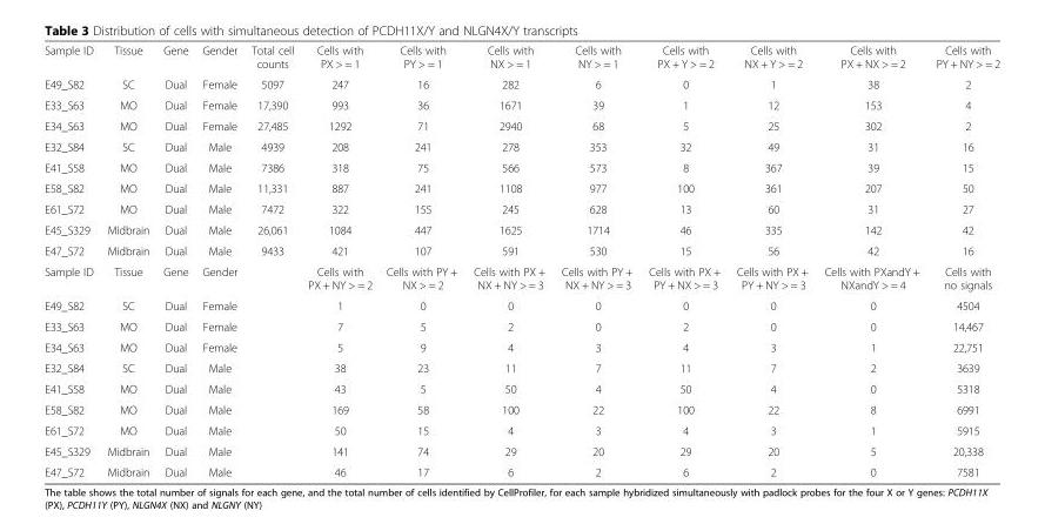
<table><tbody><tr><td>Sample ID</td><td>Tissue</td><td>Gene</td><td>Gender</td><td>Total cell counts</td><td>Cells with PX &gt; = 1</td><td>Cells with PY &gt; = 1</td><td>Cells with NX &gt; = 1</td><td>Cells with NY &gt; = 1</td><td>Cells with PX + Y &gt; = 2</td><td>Cells with NX + Y &gt; = 2</td><td>Cells with PX + NX &gt; = 2</td><td>Cells with PY + NY &gt; = 2</td></tr><tr><td>E49_S82</td><td>SC</td><td>Dual</td><td>Female</td><td>5097</td><td>247</td><td>16</td><td>282</td><td>6</td><td>0</td><td>1</td><td>38</td><td>2</td></tr><tr><td>E33_S63</td><td>MO</td><td>Dual</td><td>Female</td><td>17,390</td><td>993</td><td>36</td><td>1671</td><td>39</td><td>1</td><td>12</td><td>153</td><td>4</td></tr><tr><td>E34_S63</td><td>MO</td><td>Dual</td><td>Female</td><td>27,485</td><td>1292</td><td>71</td><td>2940</td><td>68</td><td>5</td><td>25</td><td>302</td><td>2</td></tr><tr><td>E32_S84</td><td>SC</td><td>Dual</td><td>Male</td><td>4939</td><td>208</td><td>241</td><td>278</td><td>353</td><td>32</td><td>49</td><td>31</td><td>16</td></tr><tr><td>E41_S58</td><td>MO</td><td>Dual</td><td>Male</td><td>7386</td><td>318</td><td>75</td><td>566</td><td>573</td><td>8</td><td>367</td><td>39</td><td>15</td></tr><tr><td>E58_S82</td><td>MO</td><td>Dual</td><td>Male</td><td>11,331</td><td>887</td><td>241</td><td>1108</td><td>977</td><td>100</td><td>361</td><td>207</td><td>50</td></tr><tr><td>E61_S72</td><td>MO</td><td>Dual</td><td>Male</td><td>7472</td><td>322</td><td>155</td><td>245</td><td>628</td><td>13</td><td>60</td><td>31</td><td>27</td></tr><tr><td>E45_S329</td><td>Midbrain</td><td>Dual</td><td>Male</td><td>26,061</td><td>1084</td><td>447</td><td>1625</td><td>1714</td><td>46</td><td>335</td><td>142</td><td>42</td></tr><tr><td>E47_S72</td><td>Midbrain</td><td>Dual</td><td>Male</td><td>9433</td><td>421</td><td>107</td><td>591</td><td>530</td><td>15</td><td>56</td><td>42</td><td>16</td></tr><tr><td>Sample ID</td><td>Tissue</td><td>Gene</td><td>Gender</td><td></td><td>Cells with PX + NY &gt; = 2</td><td>Cells with PY + NX &gt; = 2</td><td>Cells with PX + NX + NY &gt; = 3</td><td>Cells with PY + NX + NY &gt; = 3</td><td>Cells with PX + PY + NX &gt; = 3</td><td>Cells with PX + PY + NY &gt; = 3</td><td>Cells with PXandY + NXandY &gt; = 4</td><td>Cells with no signals</td></tr><tr><td>E49_S82</td><td>SC</td><td>Dual</td><td>Female</td><td></td><td>1</td><td>0</td><td>0</td><td>0</td><td>0</td><td>0</td><td>0</td><td>4504</td></tr><tr><td>E33_S63</td><td>MO</td><td>Dual</td><td>Female</td><td></td><td>7</td><td>5</td><td>2</td><td>0</td><td>2</td><td>0</td><td>0</td><td>14,467</td></tr><tr><td>E34_S63</td><td>MO</td><td>Dual</td><td>Female</td><td></td><td>5</td><td>9</td><td>4</td><td>3</td><td>4</td><td>3</td><td>1</td><td>22,751</td></tr><tr><td>E32_S84</td><td>SC</td><td>Dual</td><td>Male</td><td></td><td>38</td><td>23</td><td>11</td><td>7</td><td>11</td><td>7</td><td>2</td><td>3639</td></tr><tr><td>E41_S58</td><td>MO</td><td>Dual</td><td>Male</td><td></td><td>43</td><td>5</td><td>50</td><td>4</td><td>50</td><td>4</td><td>0</td><td>5318</td></tr><tr><td>E58_S82</td><td>MO</td><td>Dual</td><td>Male</td><td></td><td>169</td><td>58</td><td>100</td><td>22</td><td>100</td><td>22</td><td>8</td><td>6991</td></tr><tr><td>E61_S72</td><td>MO</td><td>Dual</td><td>Male</td><td></td><td>50</td><td>15</td><td>4</td><td>3</td><td>4</td><td>3</td><td>1</td><td>5915</td></tr><tr><td>E45_S329</td><td>Midbrain</td><td>Dual</td><td>Male</td><td></td><td>141</td><td>74</td><td>29</td><td>20</td><td>29</td><td>20</td><td>5</td><td>20,338</td></tr><tr><td>E47_S72</td><td>Midbrain</td><td>Dual</td><td>Male</td><td></td><td>46</td><td>17</td><td>6</td><td>2</td><td>6</td><td>2</td><td>0</td><td>7581</td></tr></tbody></table>